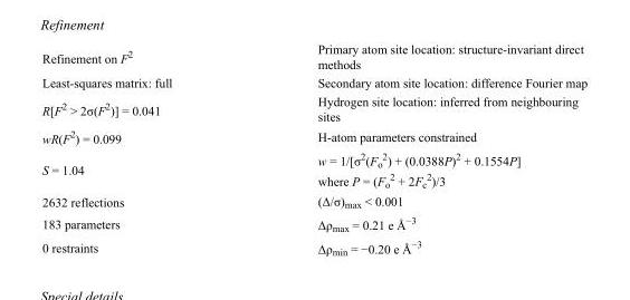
<table><tbody><tr><td>Refinement on F<sup>2</sup></td><td>Primary atom site location: structure-invariant direct methods</td></tr><tr><td>Least-squares matrix: full</td><td>Secondary atom site location: difference Fourier map</td></tr><tr><td>R[F<sup>2</sup> &gt; 2σ(F<sup>2</sup>)] = 0.041</td><td>Hydrogen site location: inferred from neighbouring sites</td></tr><tr><td>wR(F<sup>2</sup>) = 0.099</td><td>H-atom parameters constrained</td></tr><tr><td>S = 1.04</td><td>w = 1/[σ<sup>2</sup>(F<sub>o</sub> <sup>2</sup>) + (0.0388P)<sup>2</sup> + 0.1554P] where P = (F<sub>o</sub> <sup>2</sup> + 2F<sub>c</sub> <sup>2</sup>)/3</td></tr><tr><td>2632 reflections</td><td>(Δ/σ)<sub>max</sub> &lt; 0.001</td></tr><tr><td>183 parameters</td><td>Δρ<sub>max</sub> = 0.21 e Å<sup>−3</sup></td></tr><tr><td>0 restraints</td><td>Δρ<sub>min</sub> = −0.20 e Å<sup>−3</sup></td></tr></tbody></table>